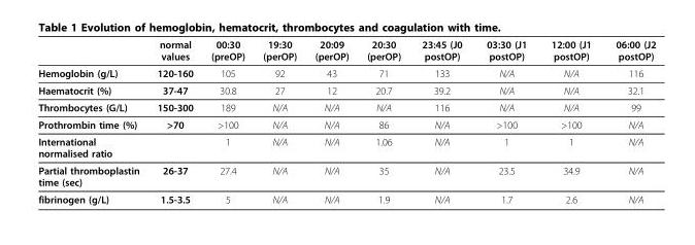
<table><thead><tr><td></td><td>normal values</td><td>00:30 (preOP)</td><td>19:30 (perOP)</td><td>20:09 (perOP)</td><td>20:30 (perOP)</td><td>23:45 (J0 postOP)</td><td>03:30 (J1 postOP)</td><td>12:00 (J1 postOP)</td><td>06:00 (J2 postOP)</td></tr></thead><tbody><tr><td>Hemoglobin (g/L)</td><td>120-160</td><td>105</td><td>92</td><td>43</td><td>71</td><td>133</td><td>N/A</td><td>N/A</td><td>116</td></tr><tr><td>Haematocrit (%)</td><td>37-47</td><td>30.8</td><td>27</td><td>12</td><td>20.7</td><td>39.2</td><td>N/A</td><td>N/A</td><td>32.1</td></tr><tr><td>Thrombocytes (G/L)</td><td>150-300</td><td>189</td><td>N/A</td><td>N/A</td><td>N/A</td><td>116</td><td>N/A</td><td>N/A</td><td>99</td></tr><tr><td>Prothrombin time (%)</td><td>&gt;70</td><td>&gt;100</td><td>N/A</td><td>N/A</td><td>86</td><td>N/A</td><td>&gt;100</td><td>&gt;100</td><td>N/A</td></tr><tr><td>International normalised ratio</td><td></td><td>1</td><td>N/A</td><td>N/A</td><td>1.06</td><td>N/A</td><td>1</td><td>1</td><td>N/A</td></tr><tr><td>Partial thromboplastin time (sec)</td><td>26-37</td><td>27.4</td><td>N/A</td><td>N/A</td><td>35</td><td>N/A</td><td>23.5</td><td>34.9</td><td>N/A</td></tr><tr><td>fibrinogen (g/L)</td><td>1.5-3.5</td><td>5</td><td>N/A</td><td>N/A</td><td>1.9</td><td>N/A</td><td>1.7</td><td>2.6</td><td>N/A</td></tr></tbody></table>